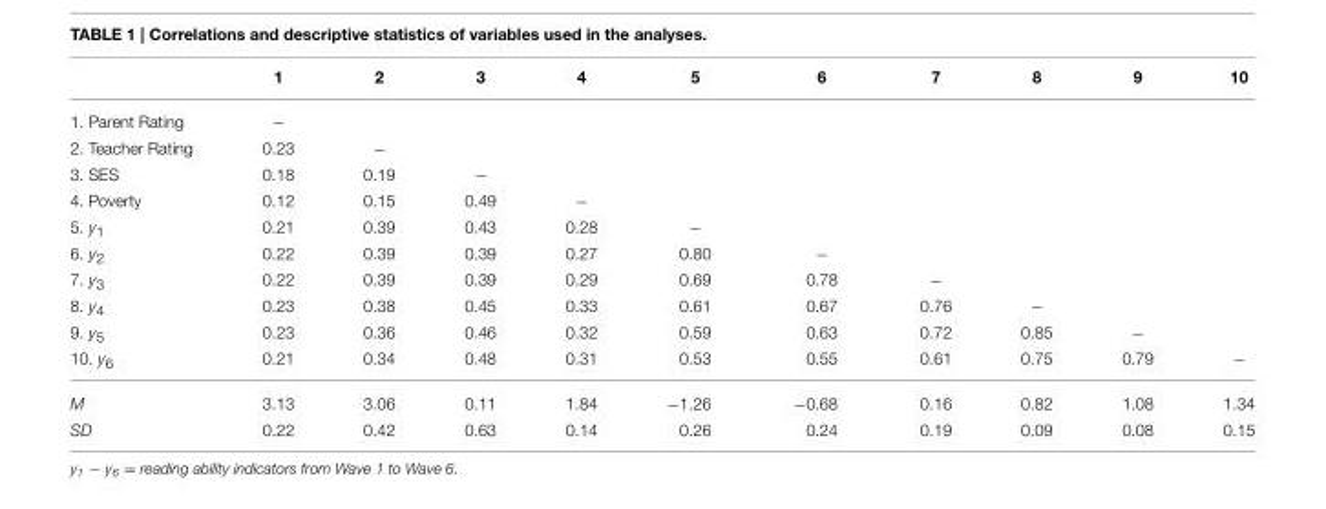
<table><thead><tr><td></td><td>1</td><td>2</td><td>3</td><td>4</td><td>5</td><td>6</td><td>7</td><td>8</td><td>9</td><td>10</td></tr></thead><tbody><tr><td>1. Parent Rating</td><td>−</td><td></td><td></td><td></td><td></td><td></td><td></td><td></td><td></td><td></td></tr><tr><td>2. Teacher Rating</td><td>0.23</td><td>−</td><td></td><td></td><td></td><td></td><td></td><td></td><td></td><td></td></tr><tr><td>3. SES</td><td>0.18</td><td>0.19</td><td>−</td><td></td><td></td><td></td><td></td><td></td><td></td><td></td></tr><tr><td>4. Poverty</td><td>0.12</td><td>0.15</td><td>0.49</td><td>−</td><td></td><td></td><td></td><td></td><td></td><td></td></tr><tr><td>5. y<sub>1</sub></td><td>0.21</td><td>0.39</td><td>0.43</td><td>0.28</td><td>−</td><td></td><td></td><td></td><td></td><td></td></tr><tr><td>6. y<sub>2</sub></td><td>0.22</td><td>0.39</td><td>0.39</td><td>0.27</td><td>0.80</td><td>−</td><td></td><td></td><td></td><td></td></tr><tr><td>7. y<sub>3</sub></td><td>0.22</td><td>0.39</td><td>0.39</td><td>0.29</td><td>0.69</td><td>0.78</td><td>−</td><td></td><td></td><td></td></tr><tr><td>8. y<sub>4</sub></td><td>0.23</td><td>0.38</td><td>0.45</td><td>0.33</td><td>0.61</td><td>0.67</td><td>0.76</td><td>−</td><td></td><td></td></tr><tr><td>9. y<sub>5</sub></td><td>0.23</td><td>0.36</td><td>0.46</td><td>0.32</td><td>0.59</td><td>0.63</td><td>0.72</td><td>0.85</td><td>−</td><td></td></tr><tr><td>10. y<sub>6</sub></td><td>0.21</td><td>0.34</td><td>0.48</td><td>0.31</td><td>0.53</td><td>0.55</td><td>0.61</td><td>0.75</td><td>0.79</td><td>−</td></tr><tr><td>M</td><td>3.13</td><td>3.06</td><td>0.11</td><td>1.84</td><td>−1.26</td><td>−0.68</td><td>0.16</td><td>0.82</td><td>1.08</td><td>1.34</td></tr><tr><td>SD</td><td>0.22</td><td>0.42</td><td>0.63</td><td>0.14</td><td>0.26</td><td>0.24</td><td>0.19</td><td>0.09</td><td>0.08</td><td>0.15</td></tr></tbody></table>